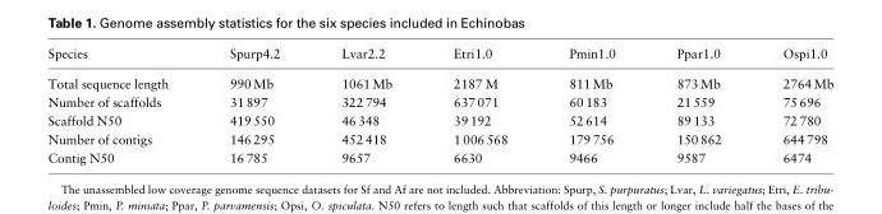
<table><thead><tr><td>Species</td><td>Spurp4.2</td><td>Lvar2.2</td><td>Etri1.0</td><td>Pmin1.0</td><td>Ppar1.0</td><td>Ospi1.0</td></tr></thead><tbody><tr><td>Total sequence length</td><td>990 Mb</td><td>1061 Mb</td><td>2187 M</td><td>811 Mb</td><td>873 Mb</td><td>2764 Mb</td></tr><tr><td>Number of scaffolds</td><td>31 897</td><td>322 794</td><td>637 071</td><td>60 183</td><td>21 559</td><td>75 696</td></tr><tr><td>Scaffold N50</td><td>419 550</td><td>46 348</td><td>39 192</td><td>52 614</td><td>89 133</td><td>72 780</td></tr><tr><td>Number of contigs</td><td>146 295</td><td>452 418</td><td>1 006 568</td><td>179 756</td><td>150 862</td><td>644 798</td></tr><tr><td>Contig N50</td><td>16 785</td><td>9657</td><td>6630</td><td>9466</td><td>9587</td><td>6474</td></tr></tbody></table>